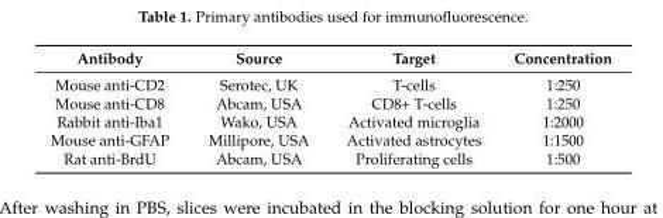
<table><thead><tr><td>Antibody</td><td>Source</td><td>Target</td><td>Concentration</td></tr></thead><tbody><tr><td>Mouse anti-CD2</td><td>Serotec, UK</td><td>T-cells</td><td>1:250</td></tr><tr><td>Mouse anti-CD8</td><td>Abcam, USA</td><td>CD8+ T-cells</td><td>1:250</td></tr><tr><td>Rabbit anti-Iba1</td><td>Wako, USA</td><td>Activated microglia</td><td>1:2000</td></tr><tr><td>Mouse anti-GFAP</td><td>Millipore, USA</td><td>Activated astrocytes</td><td>1:1500</td></tr><tr><td>Rat anti-BrdU</td><td>Abcam, USA</td><td>Proliferating cells</td><td>1:500</td></tr></tbody></table>